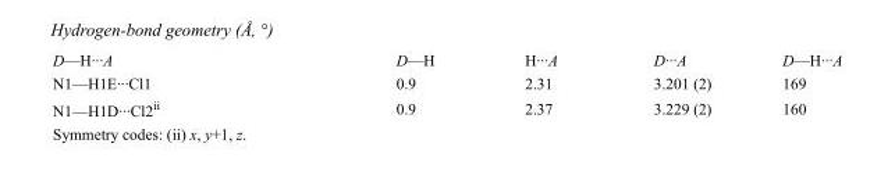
<table><tbody><tr><td>D—H···A</td><td>D—H</td><td>H···A</td><td>D···A</td><td>D—H···A</td></tr><tr><td>N1—H1E···Cl1</td><td>0.9</td><td>2.31</td><td>3.201 (2)</td><td>169</td></tr><tr><td>N1—H1D···Cl2<sup>ii</sup></td><td>0.9</td><td>2.37</td><td>3.229 (2)</td><td>160</td></tr></tbody></table>